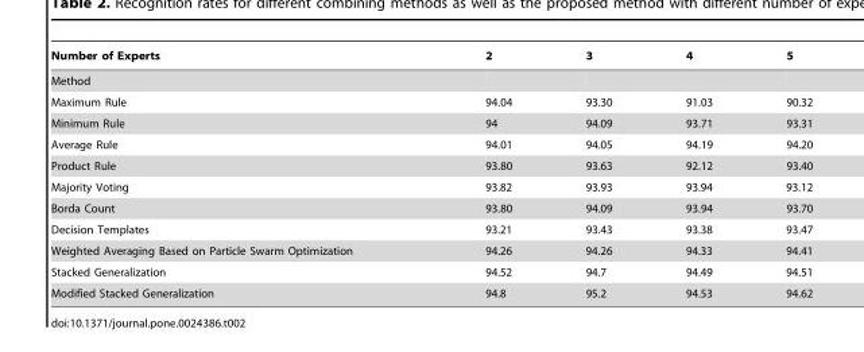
<table><thead><tr><td>Number of Experts</td><td>2</td><td>3</td><td>4</td><td>5</td></tr></thead><tbody><tr><td colspan="5">Method</td></tr><tr><td>Maximum Rule</td><td>94.04</td><td>93.30</td><td>91.03</td><td>90.32</td></tr><tr><td>Minimum Rule</td><td>94</td><td>94.09</td><td>93.71</td><td>93.31</td></tr><tr><td>Average Rule</td><td>94.01</td><td>94.05</td><td>94.19</td><td>94.20</td></tr><tr><td>Product Rule</td><td>93.80</td><td>93.63</td><td>92.12</td><td>93.40</td></tr><tr><td>Majority Voting</td><td>93.82</td><td>93.93</td><td>93.94</td><td>93.12</td></tr><tr><td>Borda Count</td><td>93.80</td><td>94.09</td><td>93.94</td><td>93.70</td></tr><tr><td>Decision Templates</td><td>93.21</td><td>93.43</td><td>93.38</td><td>93.47</td></tr><tr><td>Weighted Averaging Based on Particle Swarm Optimization</td><td>94.26</td><td>94.26</td><td>94.33</td><td>94.41</td></tr><tr><td>Stacked Generalization</td><td>94.52</td><td>94.7</td><td>94.49</td><td>94.51</td></tr><tr><td>Modified Stacked Generalization</td><td>94.8</td><td>95.2</td><td>94.53</td><td>94.62</td></tr></tbody></table>